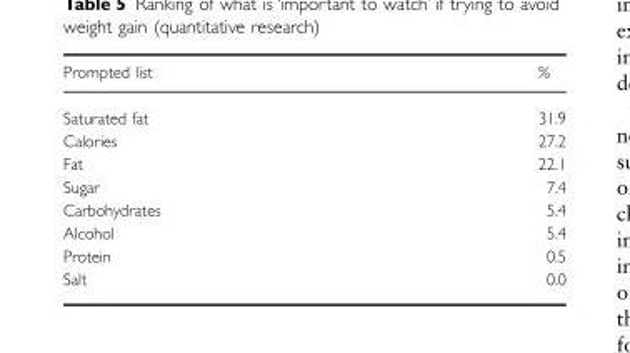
<table><thead><tr><td>Prompted list</td><td>%</td></tr></thead><tbody><tr><td>Saturated fat</td><td>31.9</td></tr><tr><td>Calories</td><td>27.2</td></tr><tr><td>Fat</td><td>22.1</td></tr><tr><td>Sugar</td><td>7.4</td></tr><tr><td>Carbohydrates</td><td>5.4</td></tr><tr><td>Alcohol</td><td>5.4</td></tr><tr><td>Protein</td><td>0.5</td></tr><tr><td>Salt</td><td>0.0</td></tr></tbody></table>